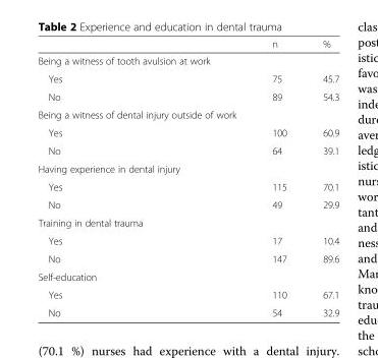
<table><thead><tr><td></td><td>n</td><td>%</td></tr></thead><tbody><tr><td colspan="3">Being a witness of tooth avulsion at work</td></tr><tr><td>Yes</td><td>75</td><td>45.7</td></tr><tr><td>No</td><td>89</td><td>54.3</td></tr><tr><td colspan="3">Being a witness of dental injury outside of work</td></tr><tr><td>Yes</td><td>100</td><td>60.9</td></tr><tr><td>No</td><td>64</td><td>39.1</td></tr><tr><td colspan="3">Having experience in dental injury</td></tr><tr><td>Yes</td><td>115</td><td>70.1</td></tr><tr><td>No</td><td>49</td><td>29.9</td></tr><tr><td colspan="3">Training in dental trauma</td></tr><tr><td>Yes</td><td>17</td><td>10.4</td></tr><tr><td>No</td><td>147</td><td>89.6</td></tr><tr><td colspan="3">Self-education</td></tr><tr><td>Yes</td><td>110</td><td>67.1</td></tr><tr><td>No</td><td>54</td><td>32.9</td></tr></tbody></table>